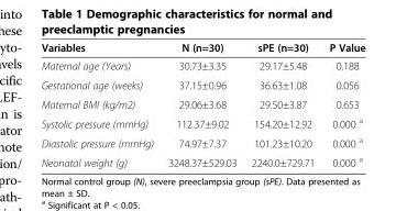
<table><thead><tr><td>Variables</td><td>N (n=30)</td><td>sPE (n=30)</td><td>P Value</td></tr></thead><tbody><tr><td>Maternal age (Years)</td><td>30.73±3.35</td><td>29.17±5.48</td><td>0.188</td></tr><tr><td>Gestational age (weeks)</td><td>37.15±0.96</td><td>36.63±1.08</td><td>0.056</td></tr><tr><td>Maternal BMI (kg/m2)</td><td>29.06±3.68</td><td>29.50±3.87</td><td>0.653</td></tr><tr><td>Systolic pressure (mmHg)</td><td>112.37±9.02</td><td>154.20±12.92</td><td>0.000 <sup>a</sup></td></tr><tr><td>Diastolic pressure (mmHg)</td><td>74.97±7.37</td><td>101.23±10.20</td><td>0.000 <sup>a</sup></td></tr><tr><td>Neonatal weight (g)</td><td>3248.37±529.03</td><td>2240.0±729.71</td><td>0.000 <sup>a</sup></td></tr></tbody></table>